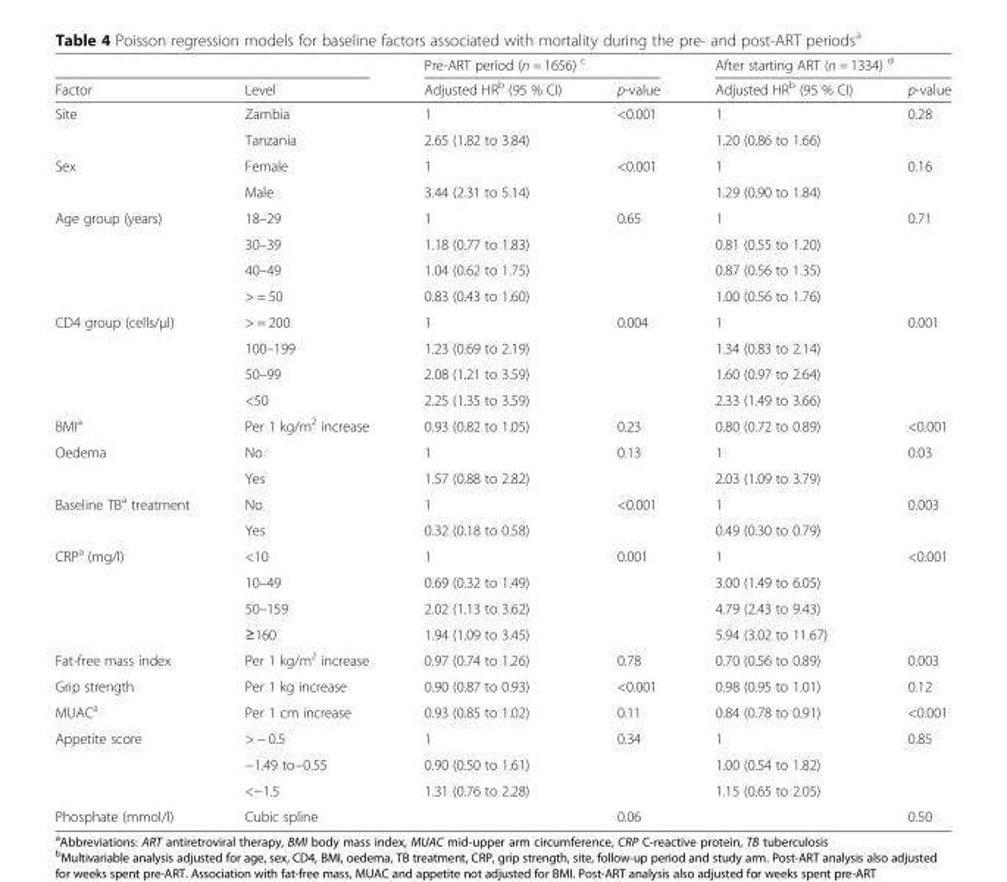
<table><thead><tr><td rowspan="2">Factor</td><td rowspan="2">Level</td><td colspan="2">Pre-ART period (n = 1656) <sup>c</sup></td><td colspan="2">After starting ART (n = 1334) <sup>d</sup></td></tr><tr><td>Adjusted HR<sup>b</sup> (95 % CI)</td><td>p-value</td><td>Adjusted HR<sup>b</sup> (95 % CI)</td><td>p-value</td></tr></thead><tbody><tr><td rowspan="2">Site</td><td>Zambia</td><td>1</td><td>&lt;0.001</td><td>1</td><td>0.28</td></tr><tr><td>Tanzania</td><td>2.65 (1.82 to 3.84)</td><td></td><td>1.20 (0.86 to 1.66)</td><td></td></tr><tr><td rowspan="2">Sex</td><td>Female</td><td>1</td><td>&lt;0.001</td><td>1</td><td>0.16</td></tr><tr><td>Male</td><td>3.44 (2.31 to 5.14)</td><td></td><td>1.29 (0.90 to 1.84)</td><td></td></tr><tr><td rowspan="4">Age group (years)</td><td>18–29</td><td>1</td><td>0.65</td><td>1</td><td>0.71</td></tr><tr><td>30–39</td><td>1.18 (0.77 to 1.83)</td><td></td><td>0.81 (0.55 to 1.20)</td><td></td></tr><tr><td>40–49</td><td>1.04 (0.62 to 1.75)</td><td></td><td>0.87 (0.56 to 1.35)</td><td></td></tr><tr><td>&gt; = 50</td><td>0.83 (0.43 to 1.60)</td><td></td><td>1.00 (0.56 to 1.76)</td><td></td></tr><tr><td rowspan="4">CD4 group (cells/μl)</td><td>&gt; = 200</td><td>1</td><td>0.004</td><td>1</td><td>0.001</td></tr><tr><td>100–199</td><td>1.23 (0.69 to 2.19)</td><td></td><td>1.34 (0.83 to 2.14)</td><td></td></tr><tr><td>50–99</td><td>2.08 (1.21 to 3.59)</td><td></td><td>1.60 (0.97 to 2.64)</td><td></td></tr><tr><td>&lt;50</td><td>2.25 (1.35 to 3.59)</td><td></td><td>2.33 (1.49 to 3.66)</td><td></td></tr><tr><td>BMI<sup>a</sup></td><td>Per 1 kg/m<sup>2</sup> increase</td><td>0.93 (0.82 to 1.05)</td><td>0.23</td><td>0.80 (0.72 to 0.89)</td><td>&lt;0.001</td></tr><tr><td rowspan="2">Oedema</td><td>No</td><td>1</td><td>0.13</td><td>1</td><td>0.03</td></tr><tr><td>Yes</td><td>1.57 (0.88 to 2.82)</td><td></td><td>2.03 (1.09 to 3.79)</td><td></td></tr><tr><td rowspan="2">Baseline TB<sup>a</sup> treatment</td><td>No</td><td>1</td><td>&lt;0.001</td><td>1</td><td>0.003</td></tr><tr><td>Yes</td><td>0.32 (0.18 to 0.58)</td><td></td><td>0.49 (0.30 to 0.79)</td><td></td></tr><tr><td rowspan="4">CRP<sup>a</sup> (mg/l)</td><td>&lt;10</td><td>1</td><td>0.001</td><td>1</td><td>&lt;0.001</td></tr><tr><td>10–49</td><td>0.69 (0.32 to 1.49)</td><td></td><td>3.00 (1.49 to 6.05)</td><td></td></tr><tr><td>50–159</td><td>2.02 (1.13 to 3.62)</td><td></td><td>4.79 (2.43 to 9.43)</td><td></td></tr><tr><td>≥160</td><td>1.94 (1.09 to 3.45)</td><td></td><td>5.94 (3.02 to 11.67)</td><td></td></tr><tr><td>Fat-free mass index</td><td>Per 1 kg/m<sup>2</sup> increase</td><td>0.97 (0.74 to 1.26)</td><td>0.78</td><td>0.70 (0.56 to 0.89)</td><td>0.003</td></tr><tr><td>Grip strength</td><td>Per 1 kg increase</td><td>0.90 (0.87 to 0.93)</td><td>&lt;0.001</td><td>0.98 (0.95 to 1.01)</td><td>0.12</td></tr><tr><td>MUAC<sup>a</sup></td><td>Per 1 cm increase</td><td>0.93 (0.85 to 1.02)</td><td>0.11</td><td>0.84 (0.78 to 0.91)</td><td>&lt;0.001</td></tr><tr><td rowspan="3">Appetite score</td><td>&gt; − 0.5</td><td>1</td><td>0.34</td><td>1</td><td>0.85</td></tr><tr><td>−1.49 to−0.55</td><td>0.90 (0.50 to 1.61)</td><td></td><td>1.00 (0.54 to 1.82)</td><td></td></tr><tr><td>&lt;−1.5</td><td>1.31 (0.76 to 2.28)</td><td></td><td>1.15 (0.65 to 2.05)</td><td></td></tr><tr><td>Phosphate (mmol/l)</td><td>Cubic spline</td><td></td><td>0.06</td><td></td><td>0.50</td></tr></tbody></table>